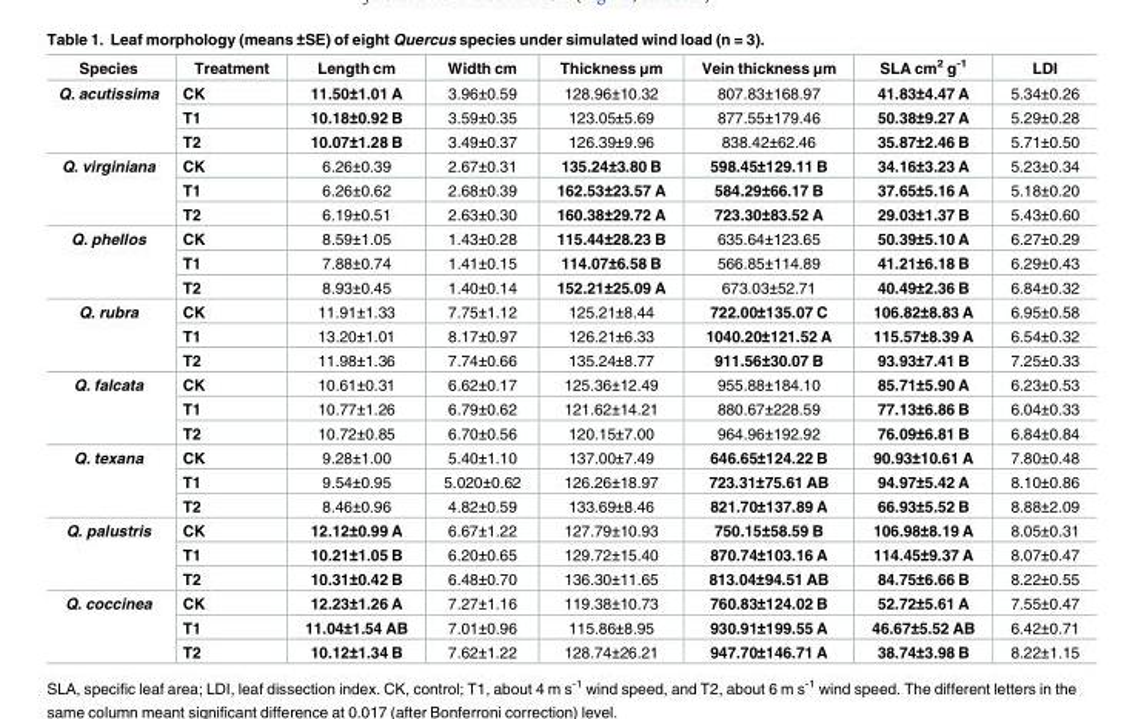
<table><thead><tr><td>Species</td><td>Treatment</td><td>Length cm</td><td>Width cm</td><td>Thickness μm</td><td>Vein thickness μm</td><td>SLA cm<sup>2</sup> g<sup>-1</sup></td><td>LDI</td></tr></thead><tbody><tr><td rowspan="3">Q. acutissima</td><td>CK</td><td>11.50±1.01 A</td><td>3.96±0.59</td><td>128.96±10.32</td><td>807.83±168.97</td><td>41.83±4.47 A</td><td>5.34±0.26</td></tr><tr><td>T1</td><td>10.18±0.92 B</td><td>3.59±0.35</td><td>123.05±5.69</td><td>877.55±179.46</td><td>50.38±9.27 A</td><td>5.29±0.28</td></tr><tr><td>T2</td><td>10.07±1.28 B</td><td>3.49±0.37</td><td>126.39±9.96</td><td>838.42±62.46</td><td>35.87±2.46 B</td><td>5.71±0.50</td></tr><tr><td rowspan="3">Q. virginiana</td><td>CK</td><td>6.26±0.39</td><td>2.67±0.31</td><td>135.24±3.80 B</td><td>598.45±129.11 B</td><td>34.16±3.23 A</td><td>5.23±0.34</td></tr><tr><td>T1</td><td>6.26±0.62</td><td>2.68±0.39</td><td>162.53±23.57 A</td><td>584.29±66.17 B</td><td>37.65±5.16 A</td><td>5.18±0.20</td></tr><tr><td>T2</td><td>6.19±0.51</td><td>2.63±0.30</td><td>160.38±29.72 A</td><td>723.30±83.52 A</td><td>29.03±1.37 B</td><td>5.43±0.60</td></tr><tr><td rowspan="3">Q. phellos</td><td>CK</td><td>8.59±1.05</td><td>1.43±0.28</td><td>115.44±28.23 B</td><td>635.64±123.65</td><td>50.39±5.10 A</td><td>6.27±0.29</td></tr><tr><td>T1</td><td>7.88±0.74</td><td>1.41±0.15</td><td>114.07±6.58 B</td><td>566.85±114.89</td><td>41.21±6.18 B</td><td>6.29±0.43</td></tr><tr><td>T2</td><td>8.93±0.45</td><td>1.40±0.14</td><td>152.21±25.09 A</td><td>673.03±52.71</td><td>40.49±2.36 B</td><td>6.84±0.32</td></tr><tr><td rowspan="3">Q. rubra</td><td>CK</td><td>11.91±1.33</td><td>7.75±1.12</td><td>125.21±8.44</td><td>722.00±135.07 C</td><td>106.82±8.83 A</td><td>6.95±0.58</td></tr><tr><td>T1</td><td>13.20±1.01</td><td>8.17±0.97</td><td>126.21±6.33</td><td>1040.20±121.52 A</td><td>115.57±8.39 A</td><td>6.54±0.32</td></tr><tr><td>T2</td><td>11.98±1.36</td><td>7.74±0.66</td><td>135.24±8.77</td><td>911.56±30.07 B</td><td>93.93±7.41 B</td><td>7.25±0.33</td></tr><tr><td rowspan="3">Q. falcata</td><td>CK</td><td>10.61±0.31</td><td>6.62±0.17</td><td>125.36±12.49</td><td>955.88±184.10</td><td>85.71±5.90 A</td><td>6.23±0.53</td></tr><tr><td>T1</td><td>10.77±1.26</td><td>6.79±0.62</td><td>121.62±14.21</td><td>880.67±228.59</td><td>77.13±6.86 B</td><td>6.04±0.33</td></tr><tr><td>T2</td><td>10.72±0.85</td><td>6.70±0.56</td><td>120.15±7.00</td><td>964.96±192.92</td><td>76.09±6.81 B</td><td>6.84±0.84</td></tr><tr><td rowspan="3">Q. texana</td><td>CK</td><td>9.28±1.00</td><td>5.40±1.10</td><td>137.00±7.49</td><td>646.65±124.22 B</td><td>90.93±10.61 A</td><td>7.80±0.48</td></tr><tr><td>T1</td><td>9.54±0.95</td><td>5.020±0.62</td><td>126.26±18.97</td><td>723.31±75.61 AB</td><td>94.97±5.42 A</td><td>8.10±0.86</td></tr><tr><td>T2</td><td>8.46±0.96</td><td>4.82±0.59</td><td>133.69±8.46</td><td>821.70±137.89 A</td><td>66.93±5.52 B</td><td>8.88±2.09</td></tr><tr><td rowspan="3">Q. palustris</td><td>CK</td><td>12.12±0.99 A</td><td>6.67±1.22</td><td>127.79±10.93</td><td>750.15±58.59 B</td><td>106.98±8.19 A</td><td>8.05±0.31</td></tr><tr><td>T1</td><td>10.21±1.05 B</td><td>6.20±0.65</td><td>129.72±15.40</td><td>870.74±103.16 A</td><td>114.45±9.37 A</td><td>8.07±0.47</td></tr><tr><td>T2</td><td>10.31±0.42 B</td><td>6.48±0.70</td><td>136.30±11.65</td><td>813.04±94.51 AB</td><td>84.75±6.66 B</td><td>8.22±0.55</td></tr><tr><td rowspan="3">Q. coccinea</td><td>CK</td><td>12.23±1.26 A</td><td>7.27±1.16</td><td>119.38±10.73</td><td>760.83±124.02 B</td><td>52.72±5.61 A</td><td>7.55±0.47</td></tr><tr><td>T1</td><td>11.04±1.54 AB</td><td>7.01±0.96</td><td>115.86±8.95</td><td>930.91±199.55 A</td><td>46.67±5.52 AB</td><td>6.42±0.71</td></tr><tr><td>T2</td><td>10.12±1.34 B</td><td>7.62±1.22</td><td>128.74±26.21</td><td>947.70±146.71 A</td><td>38.74±3.98 B</td><td>8.22±1.15</td></tr></tbody></table>